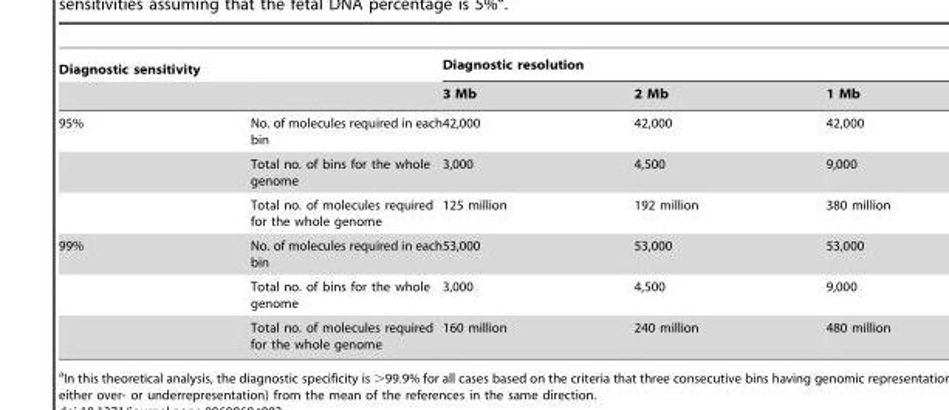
<table><thead><tr><td rowspan="2">Diagnostic sensitivity</td><td rowspan="2"></td><td colspan="3">Diagnostic resolution</td></tr><tr><td>3 Mb</td><td>2 Mb</td><td>1 Mb</td></tr></thead><tbody><tr><td rowspan="3">95%</td><td>No. of molecules required in each bin</td><td>42,000</td><td>42,000</td><td>42,000</td></tr><tr><td>Total no. of bins for the whole genome</td><td>3,000</td><td>4,500</td><td>9,000</td></tr><tr><td>Total no. of molecules required for the whole genome</td><td>125 million</td><td>192 million</td><td>380 million</td></tr><tr><td rowspan="3">99%</td><td>No. of molecules required in each bin</td><td>53,000</td><td>53,000</td><td>53,000</td></tr><tr><td>Total no. of bins for the whole genome</td><td>3,000</td><td>4,500</td><td>9,000</td></tr><tr><td>Total no. of molecules required for the whole genome</td><td>160 million</td><td>240 million</td><td>480 million</td></tr></tbody></table>